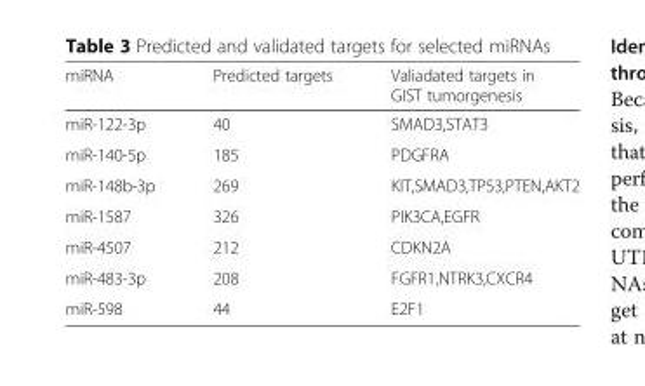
<table><thead><tr><td>miRNA</td><td>Predicted targets</td><td>Valiadated targets in GIST tumorgenesis</td></tr></thead><tbody><tr><td>miR-122-3p</td><td>40</td><td>SMAD3,STAT3</td></tr><tr><td>miR-140-5p</td><td>185</td><td>PDGFRA</td></tr><tr><td>miR-148b-3p</td><td>269</td><td>KIT,SMAD3,TP53,PTEN,AKT2</td></tr><tr><td>miR-1587</td><td>326</td><td>PIK3CA,EGFR</td></tr><tr><td>miR-4507</td><td>212</td><td>CDKN2A</td></tr><tr><td>miR-483-3p</td><td>208</td><td>FGFR1,NTRK3,CXCR4</td></tr><tr><td>miR-598</td><td>44</td><td>E2F1</td></tr></tbody></table>